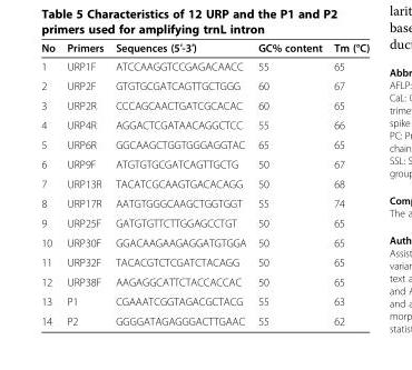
<table><thead><tr><td>No</td><td>Primers</td><td>Sequences (5′-3′)</td><td>GC% content</td><td>Tm (°C)</td></tr></thead><tbody><tr><td>1</td><td>URP1F</td><td>ATCCAAGGTCCGAGACAACC</td><td>55</td><td>65</td></tr><tr><td>2</td><td>URP2F</td><td>GTGTGCGATCAGTTGCTGGG</td><td>60</td><td>67</td></tr><tr><td>3</td><td>URP2R</td><td>CCCAGCAACTGATCGCACAC</td><td>60</td><td>65</td></tr><tr><td>4</td><td>URP4R</td><td>AGGACTCGATAACAGGCTCC</td><td>55</td><td>66</td></tr><tr><td>5</td><td>URP6R</td><td>GGCAAGCTGGTGGGAGGTAC</td><td>65</td><td>65</td></tr><tr><td>6</td><td>URP9F</td><td>ATGTGTGCGATCAGTTGCTG</td><td>50</td><td>67</td></tr><tr><td>7</td><td>URP13R</td><td>TACATCGCAAGTGACACAGG</td><td>50</td><td>68</td></tr><tr><td>8</td><td>URP17R</td><td>AATGTGGGCAAGCTGGTGGT</td><td>55</td><td>74</td></tr><tr><td>9</td><td>URP25F</td><td>GATGTGTTCTTGGAGCCTGT</td><td>50</td><td>65</td></tr><tr><td>10</td><td>URP30F</td><td>GGACAAGAAGAGGATGTGGA</td><td>50</td><td>65</td></tr><tr><td>11</td><td>URP32F</td><td>TACACGTCTCGATCTACAGG</td><td>50</td><td>65</td></tr><tr><td>12</td><td>URP38F</td><td>AAGAGGCATTCTACCACCAC</td><td>50</td><td>65</td></tr><tr><td>13</td><td>P1</td><td>CGAAATCGGTAGACGCTACG</td><td>55</td><td>63</td></tr><tr><td>14</td><td>P2</td><td>GGGGATAGAGGGACTTGAAC</td><td>55</td><td>62</td></tr></tbody></table>